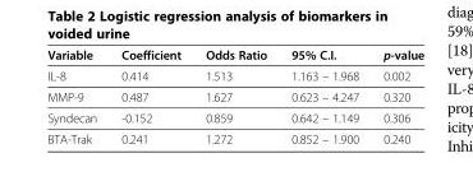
<table><thead><tr><td>Variable</td><td>Coefficient</td><td>Odds Ratio</td><td>95% C.I.</td><td>p-value</td></tr></thead><tbody><tr><td>IL-8</td><td>0.414</td><td>1.513</td><td>1.163 – 1.968</td><td>0.002</td></tr><tr><td>MMP-9</td><td>0.487</td><td>1.627</td><td>0.623 – 4.247</td><td>0.320</td></tr><tr><td>Syndecan</td><td>-0.152</td><td>0.859</td><td>0.642 – 1.149</td><td>0.306</td></tr><tr><td>BTA-Trak</td><td>0.241</td><td>1.272</td><td>0.852 – 1.900</td><td>0.240</td></tr></tbody></table>